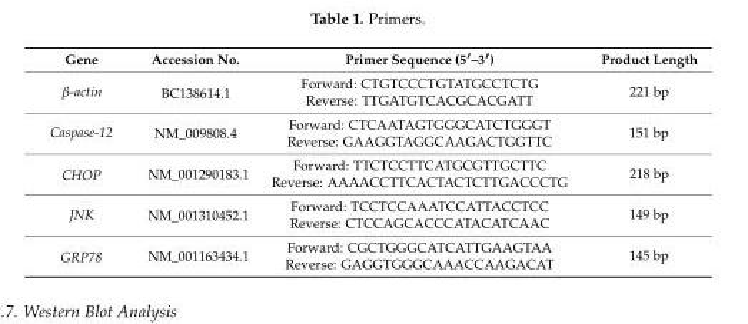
<table><thead><tr><td>Gene</td><td>Accession No.</td><td>Primer Sequence (5′–3′)</td><td>Product Length</td></tr></thead><tbody><tr><td rowspan="2">β-actin</td><td rowspan="2">BC138614.1</td><td>Forward: CTGTCCCTGTATGCCTCTG</td><td rowspan="2">221 bp</td></tr><tr><td>Reverse: TTGATGTCACGCACGATT</td></tr><tr><td rowspan="2">Caspase-12</td><td rowspan="2">NM_009808.4</td><td>Forward: CTCAATAGTGGGCATCTGGGT</td><td rowspan="2">151 bp</td></tr><tr><td>Reverse: GAAGGTAGGCAAGACTGGTTC</td></tr><tr><td rowspan="2">CHOP</td><td rowspan="2">NM_001290183.1</td><td>Forward: TTCTCCTTCATGCGTTGCTTC</td><td rowspan="2">218 bp</td></tr><tr><td>Reverse: AAAACCTTCACTACTCTTGACCCTG</td></tr><tr><td rowspan="2">JNK</td><td rowspan="2">NM_001310452.1</td><td>Forward: TCCTCCAAATCCATTACCTCC</td><td rowspan="2">149 bp</td></tr><tr><td>Reverse: CTCCAGCACCCATACATCAAC</td></tr><tr><td rowspan="2">GRP78</td><td rowspan="2">NM_001163434.1</td><td>Forward: CGCTGGGCATCATTGAAGTAA</td><td rowspan="2">145 bp</td></tr><tr><td>Reverse: GAGGTGGGCAAACCAAGACAT</td></tr></tbody></table>